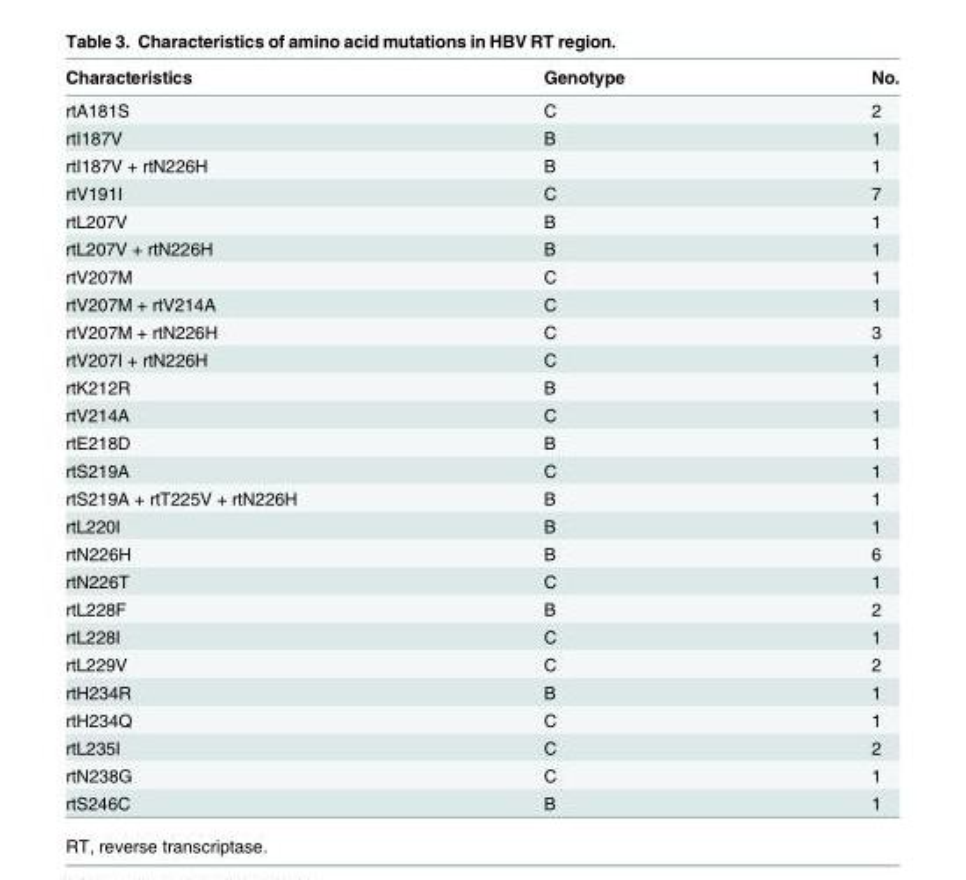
<table><thead><tr><td>Characteristics</td><td>Genotype</td><td>No.</td></tr></thead><tbody><tr><td>rtA181S</td><td>C</td><td>2</td></tr><tr><td>rtI187V</td><td>B</td><td>1</td></tr><tr><td>rtI187V + rtN226H</td><td>B</td><td>1</td></tr><tr><td>rtV191I</td><td>C</td><td>7</td></tr><tr><td>rtL207V</td><td>B</td><td>1</td></tr><tr><td>rtL207V + rtN226H</td><td>B</td><td>1</td></tr><tr><td>rtV207M</td><td>C</td><td>1</td></tr><tr><td>rtV207M + rtV214A</td><td>C</td><td>1</td></tr><tr><td>rtV207M + rtN226H</td><td>C</td><td>3</td></tr><tr><td>rtV207I + rtN226H</td><td>C</td><td>1</td></tr><tr><td>rtK212R</td><td>B</td><td>1</td></tr><tr><td>rtV214A</td><td>C</td><td>1</td></tr><tr><td>rtE218D</td><td>B</td><td>1</td></tr><tr><td>rtS219A</td><td>C</td><td>1</td></tr><tr><td>rtS219A + rtT225V + rtN226H</td><td>B</td><td>1</td></tr><tr><td>rtL220I</td><td>B</td><td>1</td></tr><tr><td>rtN226H</td><td>B</td><td>6</td></tr><tr><td>rtN226T</td><td>C</td><td>1</td></tr><tr><td>rtL228F</td><td>B</td><td>2</td></tr><tr><td>rtL228I</td><td>C</td><td>1</td></tr><tr><td>rtL229V</td><td>C</td><td>2</td></tr><tr><td>rtH234R</td><td>B</td><td>1</td></tr><tr><td>rtH234Q</td><td>C</td><td>1</td></tr><tr><td>rtL235I</td><td>C</td><td>2</td></tr><tr><td>rtN238G</td><td>C</td><td>1</td></tr><tr><td>rtS246C</td><td>B</td><td>1</td></tr></tbody></table>